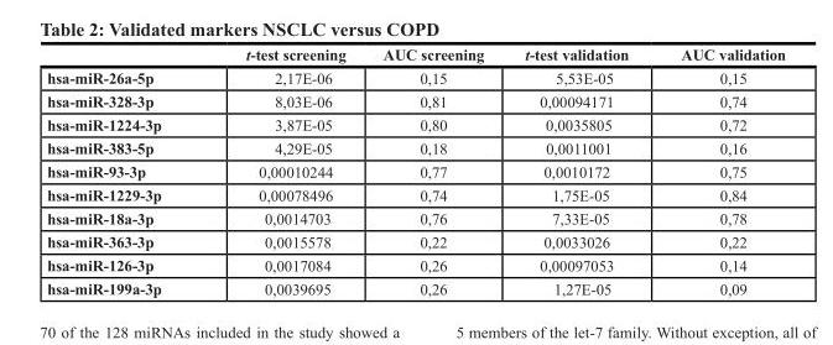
<table><thead><tr><td></td><td>t-test screening</td><td>AUC screening</td><td>t-test validation</td><td>AUC validation</td></tr></thead><tbody><tr><td>hsa-miR-26a-5p</td><td>2,17E-06</td><td>0,15</td><td>5,53E-05</td><td>0,15</td></tr><tr><td>hsa-miR-328-3p</td><td>8,03E-06</td><td>0,81</td><td>0,00094171</td><td>0,74</td></tr><tr><td>hsa-miR-1224-3p</td><td>3,87E-05</td><td>0,80</td><td>0,0035805</td><td>0,72</td></tr><tr><td>hsa-miR-383-5p</td><td>4,29E-05</td><td>0,18</td><td>0,0011001</td><td>0,16</td></tr><tr><td>hsa-miR-93-3p</td><td>0,00010244</td><td>0,77</td><td>0,0010172</td><td>0,75</td></tr><tr><td>hsa-miR-1229-3p</td><td>0,00078496</td><td>0,74</td><td>1,75E-05</td><td>0,84</td></tr><tr><td>hsa-miR-18a-3p</td><td>0,0014703</td><td>0,76</td><td>7,33E-05</td><td>0,78</td></tr><tr><td>hsa-miR-363-3p</td><td>0,0015578</td><td>0,22</td><td>0,0033026</td><td>0,22</td></tr><tr><td>hsa-miR-126-3p</td><td>0,0017084</td><td>0,26</td><td>0,00097053</td><td>0,14</td></tr><tr><td>hsa-miR-199a-3p</td><td>0,0039695</td><td>0,26</td><td>1,27E-05</td><td>0,09</td></tr></tbody></table>